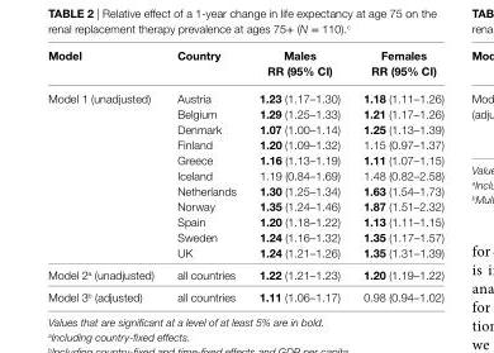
<table><thead><tr><td>Model</td><td>country</td><td>Males rr (95% ci)</td><td>Females rr (95% ci)</td></tr></thead><tbody><tr><td rowspan="11">Model 1 (unadjusted)</td><td>Austria</td><td>1.23 (1.17–1.30)</td><td>1.18 (1.11–1.26)</td></tr><tr><td>Belgium</td><td>1.29 (1.25–1.33)</td><td>1.21 (1.17–1.26)</td></tr><tr><td>Denmark</td><td>1.07 (1.00–1.14)</td><td>1.25 (1.13–1.39)</td></tr><tr><td>Finland</td><td>1.20 (1.09–1.32)</td><td>1.15 (0.97–1.37)</td></tr><tr><td>Greece</td><td>1.16 (1.13–1.19)</td><td>1.11 (1.07–1.15)</td></tr><tr><td>Iceland</td><td>1.19 (0.84–1.69)</td><td>1.48 (0.82–2.58)</td></tr><tr><td>Netherlands</td><td>1.30 (1.25–1.34)</td><td>1.63 (1.54–1.73)</td></tr><tr><td>Norway</td><td>1.35 (1.24–1.46)</td><td>1.87 (1.51–2.32)</td></tr><tr><td>Spain</td><td>1.20 (1.18–1.22)</td><td>1.13 (1.11–1.15)</td></tr><tr><td>Sweden</td><td>1.24 (1.16–1.32)</td><td>1.35 (1.17–1.57)</td></tr><tr><td>UK</td><td>1.24 (1.21–1.26)</td><td>1.35 (1.31–1.39)</td></tr><tr><td>Model 2<sup>a</sup> (unadjusted)</td><td>all countries</td><td>1.22 (1.21–1.23)</td><td>1.20 (1.19–1.22)</td></tr><tr><td>Model 3<sup>b</sup> (adjusted)</td><td>all countries</td><td>1.11 (1.06–1.17)</td><td>0.98 (0.94–1.02)</td></tr></tbody></table>